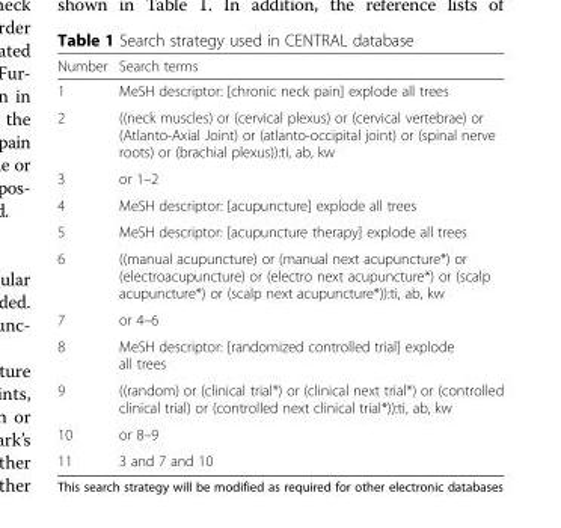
<table><thead><tr><td>Number</td><td>Search terms</td></tr></thead><tbody><tr><td>1</td><td>MeSH descriptor: [chronic neck pain] explode all trees</td></tr><tr><td>2</td><td>((neck muscles) or (cervical plexus) or (cervical vertebrae) or (Atlanto-Axial Joint) or (atlanto-occipital joint) or (spinal nerve roots) or (brachial plexus)):ti, ab, kw</td></tr><tr><td>3</td><td>or 1–2</td></tr><tr><td>4</td><td>MeSH descriptor: [acupuncture] explode all trees</td></tr><tr><td>5</td><td>MeSH descriptor: [acupuncture therapy] explode all trees</td></tr><tr><td>6</td><td>((manual acupuncture) or (manual next acupuncture*) or (electroacupuncture) or (electro next acupuncture*) or (scalp acupuncture*) or (scalp next acupuncture*)):ti, ab, kw</td></tr><tr><td>7</td><td>or 4–6</td></tr><tr><td>8</td><td>MeSH descriptor: [randomized controlled trial] explode all trees</td></tr><tr><td>9</td><td>((random) or (clinical trial*) or (clinical next trial*) or (controlled clinical trial) or (controlled next clinical trial*)):ti, ab, kw</td></tr><tr><td>10</td><td>or 8–9</td></tr><tr><td>11</td><td>3 and 7 and 10</td></tr></tbody></table>